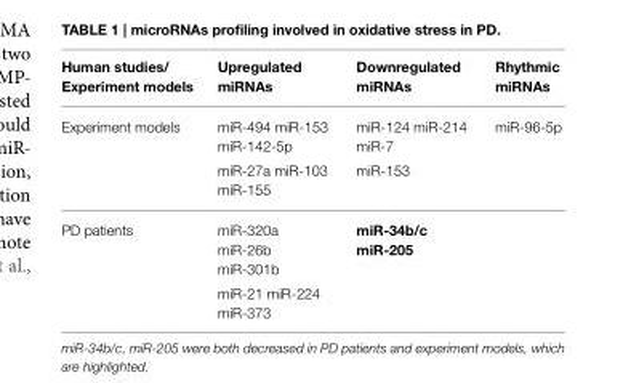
<table><thead><tr><td>Human studies/ Experiment models</td><td>Upregulated miRNAs</td><td>Downregulated miRNAs</td><td>Rhythmic miRNAs</td></tr></thead><tbody><tr><td rowspan="2">Experiment models</td><td>miR-494 miR-153 miR-142-5p</td><td>miR-124 miR-214 miR-7</td><td>miR-96-5p</td></tr><tr><td>miR-27a miR-103 miR-155</td><td>miR-153</td><td></td></tr><tr><td rowspan="2">PD patients</td><td>miR-320a miR-26b miR-301b</td><td>miR-34b/c miR-205</td><td></td></tr><tr><td>miR-21 miR-224 miR-373</td><td></td><td></td></tr></tbody></table>